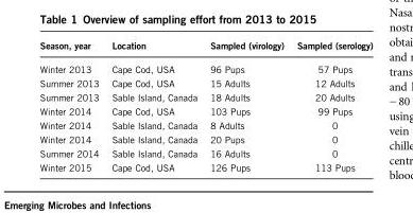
<table><thead><tr><td>Season, year</td><td>Location</td><td>Sampled (virology)</td><td>Sampled (serology)</td></tr></thead><tbody><tr><td>Winter 2013</td><td>Cape Cod, USA</td><td>96 Pups</td><td>57 Pups</td></tr><tr><td>Summer 2013</td><td>Cape Cod, USA</td><td>15 Adults</td><td>12 Adults</td></tr><tr><td>Summer 2013</td><td>Sable Island, Canada</td><td>18 Adults</td><td>20 Adults</td></tr><tr><td>Winter 2014</td><td>Cape Cod, USA</td><td>103 Pups</td><td>99 Pups</td></tr><tr><td>Winter 2014</td><td>Sable Island, Canada</td><td>8 Adults</td><td>0</td></tr><tr><td>Winter 2014</td><td>Sable Island, Canada</td><td>20 Pups</td><td>0</td></tr><tr><td>Summer 2014</td><td>Sable Island, Canada</td><td>16 Adults</td><td>0</td></tr><tr><td>Winter 2015</td><td>Cape Cod, USA</td><td>126 Pups</td><td>113 Pups</td></tr></tbody></table>